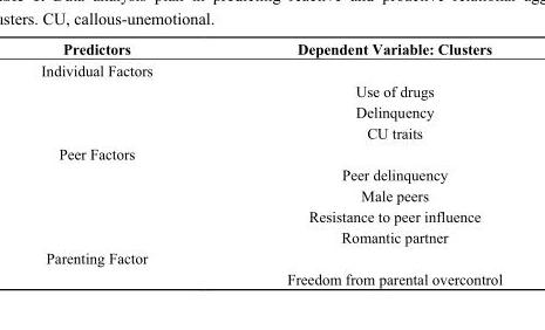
<table><thead><tr><td>Predictors</td><td>Dependent Variable: Clusters</td></tr></thead><tbody><tr><td colspan="2">Individual Factors</td></tr><tr><td></td><td>Use of drugs</td></tr><tr><td></td><td>Delinquency</td></tr><tr><td></td><td>CU traits</td></tr><tr><td colspan="2">Peer Factors</td></tr><tr><td></td><td>Peer delinquency</td></tr><tr><td></td><td>Male peers</td></tr><tr><td></td><td>Resistance to peer influence</td></tr><tr><td></td><td>Romantic partner</td></tr><tr><td colspan="2">Parenting Factor</td></tr><tr><td></td><td>Freedom from parental overcontrol</td></tr></tbody></table>